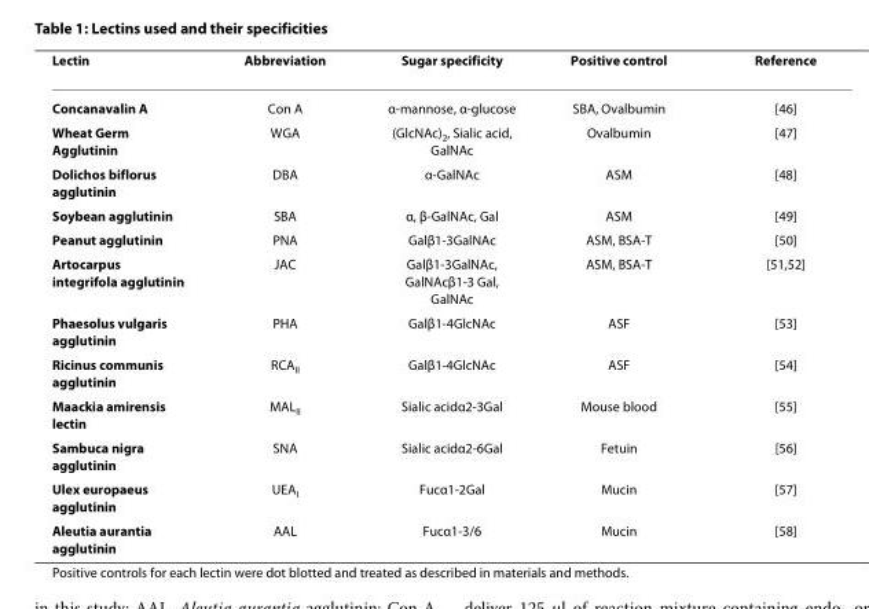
<table><thead><tr><td>Lectin</td><td>Abbreviation</td><td>Sugar specificity</td><td>Positive control</td><td>Reference</td></tr></thead><tbody><tr><td>Concanavalin A</td><td>Con A</td><td>α-mannose, α-glucose</td><td>SBA, Ovalbumin</td><td>[46]</td></tr><tr><td>Wheat Germ Agglutinin</td><td>WGA</td><td>(GlcNAc)<sub>2</sub>, Sialic acid, GalNAc</td><td>Ovalbumin</td><td>[47]</td></tr><tr><td>Dolichos biflorus agglutinin</td><td>DBA</td><td>α-GalNAc</td><td>ASM</td><td>[48]</td></tr><tr><td>Soybean agglutinin</td><td>SBA</td><td>α, β-GalNAc, Gal</td><td>ASM</td><td>[49]</td></tr><tr><td>Peanut agglutinin</td><td>PNA</td><td>Galβ1-3GalNAc</td><td>ASM, BSA-T</td><td>[50]</td></tr><tr><td>Artocarpus integrifola agglutinin</td><td>JAC</td><td>Galβ1-3GalNAc, GalNAcβ1-3 Gal, GalNAc</td><td>ASM, BSA-T</td><td>[51,52]</td></tr><tr><td>Phaesolus vulgaris agglutinin</td><td>PHA</td><td>Galβ1-4GlcNAc</td><td>ASF</td><td>[53]</td></tr><tr><td>Ricinus communis agglutinin</td><td>RCA<sub>II</sub></td><td>Galβ1-4GlcNAc</td><td>ASF</td><td>[54]</td></tr><tr><td>Maackia amirensis lectin</td><td>MAL<sub>II</sub></td><td>Sialic acidα2-3Gal</td><td>Mouse blood</td><td>[55]</td></tr><tr><td>Sambuca nigra agglutinin</td><td>SNA</td><td>Sialic acidα2-6Gal</td><td>Fetuin</td><td>[56]</td></tr><tr><td>Ulex europaeus agglutinin</td><td>UEA<sub>I</sub></td><td>Fucα1-2Gal</td><td>Mucin</td><td>[57]</td></tr><tr><td>Aleutia aurantia agglutinin</td><td>AAL</td><td>Fucα1-3/6</td><td>Mucin</td><td>[58]</td></tr></tbody></table>